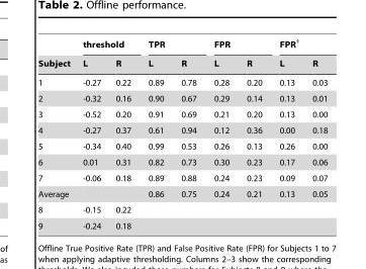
<table><thead><tr><td rowspan="2">Subject</td><td colspan="2">threshold</td><td colspan="2">TPR</td><td colspan="2">FPR</td><td colspan="2">FPR†</td></tr><tr><td>L</td><td>R</td><td>L</td><td>R</td><td>L</td><td>R</td><td>L</td><td>R</td></tr></thead><tbody><tr><td>1</td><td>-0.27</td><td>0.22</td><td>0.89</td><td>0.78</td><td>0.28</td><td>0.20</td><td>0.13</td><td>0.03</td></tr><tr><td>2</td><td>-0.32</td><td>0.16</td><td>0.90</td><td>0.67</td><td>0.29</td><td>0.14</td><td>0.13</td><td>0.01</td></tr><tr><td>3</td><td>-0.52</td><td>0.20</td><td>0.91</td><td>0.69</td><td>0.21</td><td>0.20</td><td>0.13</td><td>0.00</td></tr><tr><td>4</td><td>-0.27</td><td>0.37</td><td>0.61</td><td>0.94</td><td>0.12</td><td>0.36</td><td>0.00</td><td>0.18</td></tr><tr><td>5</td><td>-0.34</td><td>0.40</td><td>0.99</td><td>0.53</td><td>0.26</td><td>0.13</td><td>0.26</td><td>0.00</td></tr><tr><td>6</td><td>0.01</td><td>0.31</td><td>0.82</td><td>0.73</td><td>0.30</td><td>0.23</td><td>0.17</td><td>0.06</td></tr><tr><td>7</td><td>-0.06</td><td>0.18</td><td>0.89</td><td>0.88</td><td>0.24</td><td>0.23</td><td>0.09</td><td>0.07</td></tr><tr><td>Average</td><td colspan="2"></td><td>0.86</td><td>0.75</td><td>0.24</td><td>0.21</td><td>0.13</td><td>0.05</td></tr><tr><td>8</td><td>-0.15</td><td>0.22</td><td colspan="6"></td></tr><tr><td>9</td><td>-0.24</td><td>0.18</td><td colspan="6"></td></tr></tbody></table>